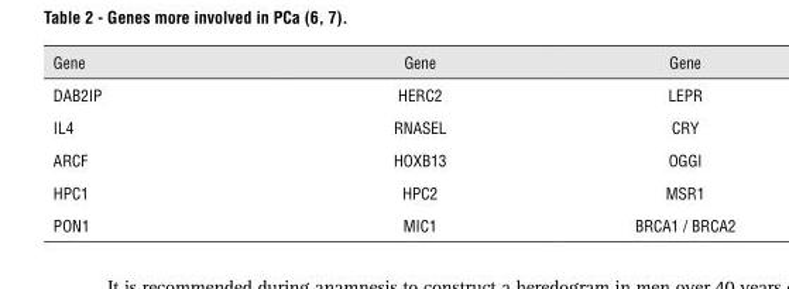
<table><thead><tr><td>Gene</td><td>Gene</td><td>Gene</td></tr></thead><tbody><tr><td>DAB2IP</td><td>HERC2</td><td>LEPR</td></tr><tr><td>IL4</td><td>RNASEL</td><td>CRY</td></tr><tr><td>ARCF</td><td>HOXB13</td><td>OGGI</td></tr><tr><td>HPC1</td><td>HPC2</td><td>MSR1</td></tr><tr><td>PON1</td><td>MIC1</td><td>BRCA1 / BRCA2</td></tr></tbody></table>